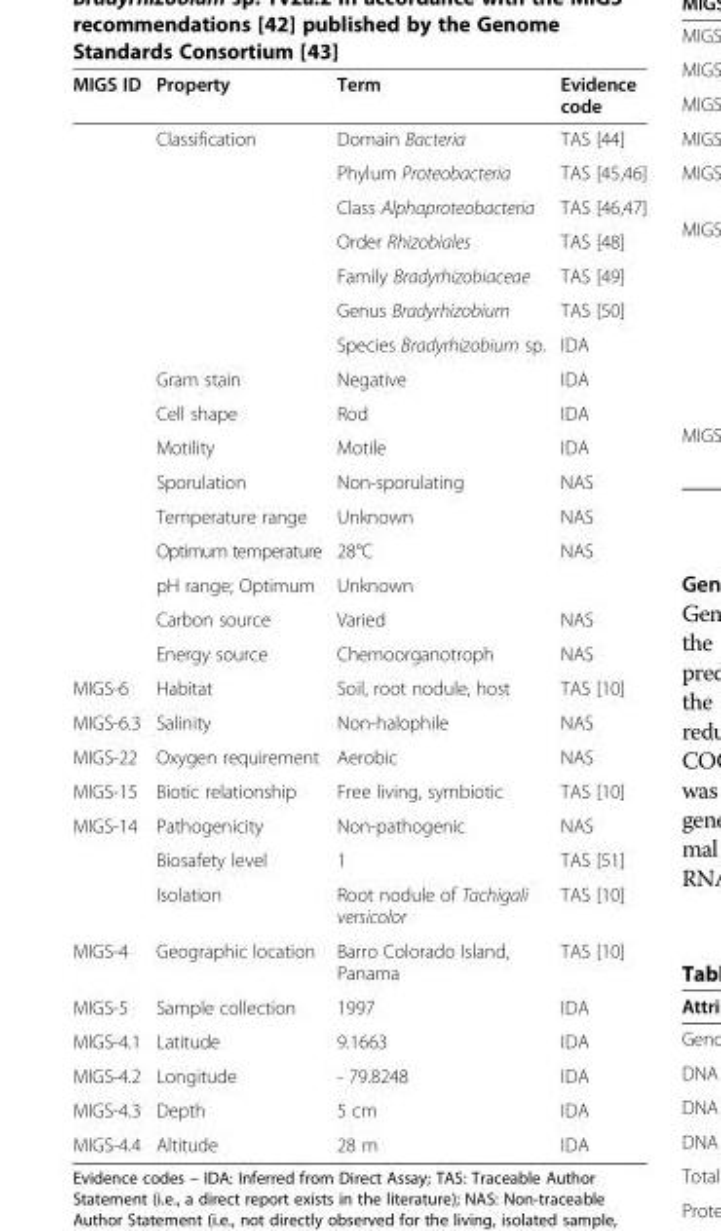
<table><thead><tr><td>MIGS ID</td><td>Property</td><td>Term</td><td>Evidence code</td></tr></thead><tbody><tr><td></td><td>Classification</td><td>Domain Bacteria</td><td>TAS [44]</td></tr><tr><td></td><td></td><td>Phylum Proteobacteria</td><td>TAS [45,46]</td></tr><tr><td></td><td></td><td>Class Alphaproteobacteria</td><td>TAS [46,47]</td></tr><tr><td></td><td></td><td>Order Rhizobiales</td><td>TAS [48]</td></tr><tr><td></td><td></td><td>Family Bradyrhizobiaceae</td><td>TAS [49]</td></tr><tr><td></td><td></td><td>Genus Bradyrhizobium</td><td>TAS [50]</td></tr><tr><td></td><td></td><td>Species Bradyrhizobium sp.</td><td>IDA</td></tr><tr><td></td><td>Gram stain</td><td>Negative</td><td>IDA</td></tr><tr><td></td><td>Cell shape</td><td>Rod</td><td>IDA</td></tr><tr><td></td><td>Motility</td><td>Motile</td><td>IDA</td></tr><tr><td></td><td>Sporulation</td><td>Non-sporulating</td><td>NAS</td></tr><tr><td></td><td>Temperature range</td><td>Unknown</td><td>NAS</td></tr><tr><td></td><td>Optimum temperature</td><td>28°C</td><td>NAS</td></tr><tr><td></td><td>pH range; Optimum</td><td>Unknown</td><td></td></tr><tr><td></td><td>Carbon source</td><td>Varied</td><td>NAS</td></tr><tr><td></td><td>Energy source</td><td>Chemoorganotroph</td><td>NAS</td></tr><tr><td>MIGS-6</td><td>Habitat</td><td>Soil, root nodule, host</td><td>TAS [10]</td></tr><tr><td>MIGS-6.3</td><td>Salinity</td><td>Non-halophile</td><td>NAS</td></tr><tr><td>MIGS-22</td><td>Oxygen requirement</td><td>Aerobic</td><td>NAS</td></tr><tr><td>MIGS-15</td><td>Biotic relationship</td><td>Free living, symbiotic</td><td>TAS [10]</td></tr><tr><td rowspan="3">MIGS-14</td><td>Pathogenicity</td><td>Non-pathogenic</td><td>NAS</td></tr><tr><td>Biosafety level</td><td>1</td><td>TAS [51]</td></tr><tr><td>Isolation</td><td>Root nodule of Tachigali versicolor</td><td>TAS [10]</td></tr><tr><td>MIGS-4</td><td>Geographic location</td><td>Barro Colorado Island, Panama</td><td>TAS [10]</td></tr><tr><td>MIGS-5</td><td>Sample collection</td><td>1997</td><td>IDA</td></tr><tr><td>MIGS-4.1</td><td>Latitude</td><td>9.1663</td><td>IDA</td></tr><tr><td>MIGS-4.2</td><td>Longitude</td><td>- 79.8248</td><td>IDA</td></tr><tr><td>MIGS-4.3</td><td>Depth</td><td>5 cm</td><td>IDA</td></tr><tr><td>MIGS-4.4</td><td>Altitude</td><td>28 m</td><td>IDA</td></tr></tbody></table>